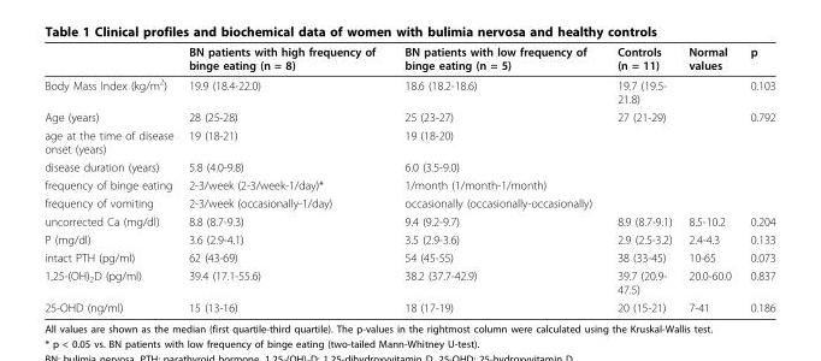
<table><thead><tr><td></td><td>BN patients with high frequency of binge eating (n = 8)</td><td>BN patients with low frequency of binge eating (n = 5)</td><td>Controls (n = 11)</td><td>Normal values</td><td>p</td></tr></thead><tbody><tr><td>Body Mass Index (kg/m<sup>2</sup>)</td><td>19.9 (18.4-22.0)</td><td>18.6 (18.2-18.6)</td><td>19.7 (19.5- 21.8)</td><td></td><td>0.103</td></tr><tr><td>Age (years)</td><td>28 (25-28)</td><td>25 (23-27)</td><td>27 (21-29)</td><td></td><td>0.792</td></tr><tr><td>age at the time of disease onset (years)</td><td>19 (18-21)</td><td>19 (18-20)</td><td></td><td></td><td></td></tr><tr><td>disease duration (years)</td><td>5.8 (4.0-9.8)</td><td>6.0 (3.5-9.0)</td><td></td><td></td><td></td></tr><tr><td>frequency of binge eating</td><td>2-3/week (2-3/week-1/day)*</td><td>1/month (1/month-1/month)</td><td></td><td></td><td></td></tr><tr><td>frequency of vomiting</td><td>2-3/week (occasionally-1/day)</td><td>occasionally (occasionally-occasionally)</td><td></td><td></td><td></td></tr><tr><td>uncorrected Ca (mg/dl)</td><td>8.8 (8.7-9.3)</td><td>9.4 (9.2-9.7)</td><td>8.9 (8.7-9.1)</td><td>8.5-10.2</td><td>0.204</td></tr><tr><td>P (mg/dl)</td><td>3.6 (2.9-4.1)</td><td>3.5 (2.9-3.6)</td><td>2.9 (2.5-3.2)</td><td>2.4-4.3</td><td>0.133</td></tr><tr><td>intact PTH (pg/ml)</td><td>62 (43-69)</td><td>54 (45-55)</td><td>38 (33-45)</td><td>10-65</td><td>0.073</td></tr><tr><td>1,25-(OH)<sub>2</sub>D (pg/ml)</td><td>39.4 (17.1-55.6)</td><td>38.2 (37.7-42.9)</td><td>39.7 (20.9- 47.5)</td><td>20.0-60.0</td><td>0.837</td></tr><tr><td>25-OHD (ng/ml)</td><td>15 (13-16)</td><td>18 (17-19)</td><td>20 (15-21)</td><td>7-41</td><td>0.186</td></tr></tbody></table>